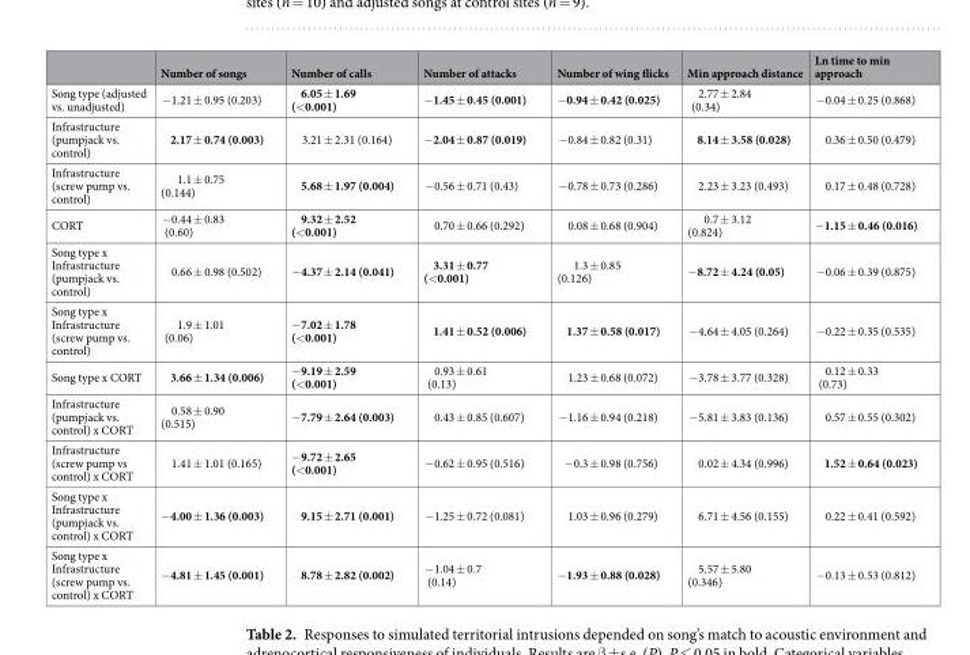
<table><thead><tr><td></td><td>Number of songs</td><td>Number of calls</td><td>Number of attacks</td><td>Number of wing flicks</td><td>Min approach distance</td><td>Ln time to min approach</td></tr></thead><tbody><tr><td>Song type (adjusted vs. unadjusted)</td><td>−1.21 ± 0.95 (0.203)</td><td>6.05 ± 1.69 (&lt;0.001)</td><td>−1.45 ± 0.45 (0.001)</td><td>−0.94 ± 0.42 (0.025)</td><td>2.77 ± 2.84 (0.34)</td><td>−0.04 ± 0.25 (0.868)</td></tr><tr><td>Infrastructure (pumpjack vs. control)</td><td>2.17 ± 0.74 (0.003)</td><td>3.21 ± 2.31 (0.164)</td><td>−2.04 ± 0.87 (0.019)</td><td>−0.84 ± 0.82 (0.31)</td><td>8.14 ± 3.58 (0.028)</td><td>0.36 ± 0.50 (0.479)</td></tr><tr><td>Infrastructure (screw pump vs. control)</td><td>1.1 ± 0.75 (0.144)</td><td>5.68 ± 1.97 (0.004)</td><td>−0.56 ± 0.71 (0.43)</td><td>−0.78 ± 0.73 (0.286)</td><td>2.23 ± 3.23 (0.493)</td><td>0.17 ± 0.48 (0.728)</td></tr><tr><td>CORT</td><td>−0.44 ± 0.83 (0.60)</td><td>9.32 ± 2.52 (&lt;0.001)</td><td>0.70 ± 0.66 (0.292)</td><td>0.08 ± 0.68 (0.904)</td><td>0.7 ± 3.12 (0.824)</td><td>−1.15 ± 0.46 (0.016)</td></tr><tr><td>Song type x Infrastructure (pumpjack vs. control)</td><td>0.66 ± 0.98 (0.502)</td><td>−4.37 ± 2.14 (0.041)</td><td>3.31 ± 0.77 (&lt;0.001)</td><td>1.3 ± 0.85 (0.126)</td><td>−8.72 ± 4.24 (0.05)</td><td>−0.06 ± 0.39 (0.875)</td></tr><tr><td>Song type x Infrastructure (screw pump vs. control)</td><td>1.9 ± 1.01 (0.06)</td><td>−7.02 ± 1.78 (&lt;0.001)</td><td>1.41 ± 0.52 (0.006)</td><td>1.37 ± 0.58 (0.017)</td><td>−4.64 ± 4.05 (0.264)</td><td>−0.22 ± 0.35 (0.535)</td></tr><tr><td>Song type x CORT</td><td>3.66 ± 1.34 (0.006)</td><td>−9.19 ± 2.59 (&lt;0.001)</td><td>0.93 ± 0.61 (0.13)</td><td>1.23 ± 0.68 (0.072)</td><td>−3.78 ± 3.77 (0.328)</td><td>0.12 ± 0.33 (0.73)</td></tr><tr><td>Infrastructure (pumpjack vs. control) x CORT</td><td>0.58 ± 0.90 (0.515)</td><td>−7.79 ± 2.64 (0.003)</td><td>0.43 ± 0.85 (0.607)</td><td>−1.16 ± 0.94 (0.218)</td><td>−5.81 ± 3.83 (0.136)</td><td>0.57 ± 0.55 (0.302)</td></tr><tr><td>Infrastructure (screw pump vs control) x CORT</td><td>1.41 ± 1.01 (0.165)</td><td>−9.72 ± 2.65 (&lt;0.001)</td><td>−0.62 ± 0.95 (0.516)</td><td>−0.3 ± 0.98 (0.756)</td><td>0.02 ± 4.34 (0.996)</td><td>1.52 ± 0.64 (0.023)</td></tr><tr><td>Song type x Infrastructure (pumpjack vs. control) x CORT</td><td>−4.00 ± 1.36 (0.003)</td><td>9.15 ± 2.71 (0.001)</td><td>−1.25 ± 0.72 (0.081)</td><td>1.03 ± 0.96 (0.279)</td><td>6.71 ± 4.56 (0.155)</td><td>0.22 ± 0.41 (0.592)</td></tr><tr><td>Song type x Infrastructure (screw pump vs. control) x CORT</td><td>−4.81 ± 1.45 (0.001)</td><td>8.78 ± 2.82 (0.002)</td><td>−1.04 ± 0.7 (0.14)</td><td>−1.93 ± 0.88 (0.028)</td><td>5.57 ± 5.80 (0.346)</td><td>−0.13 ± 0.53 (0.812)</td></tr></tbody></table>